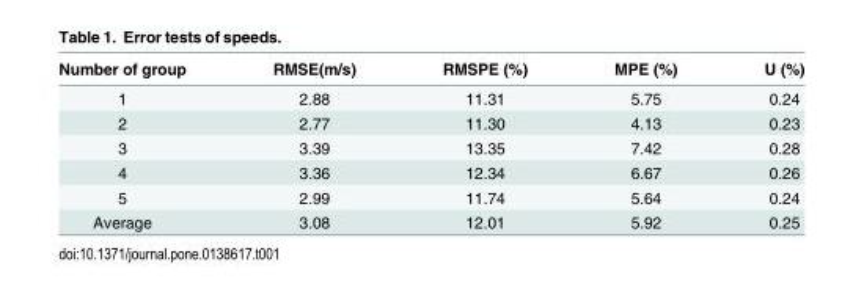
<table><thead><tr><td>Number of group</td><td>RMSE(m/s)</td><td>RMSPE (%)</td><td>MPE (%)</td><td>U (%)</td></tr></thead><tbody><tr><td>1</td><td>2.88</td><td>11.31</td><td>5.75</td><td>0.24</td></tr><tr><td>2</td><td>2.77</td><td>11.30</td><td>4.13</td><td>0.23</td></tr><tr><td>3</td><td>3.39</td><td>13.35</td><td>7.42</td><td>0.28</td></tr><tr><td>4</td><td>3.36</td><td>12.34</td><td>6.67</td><td>0.26</td></tr><tr><td>5</td><td>2.99</td><td>11.74</td><td>5.64</td><td>0.24</td></tr><tr><td>Average</td><td>3.08</td><td>12.01</td><td>5.92</td><td>0.25</td></tr></tbody></table>